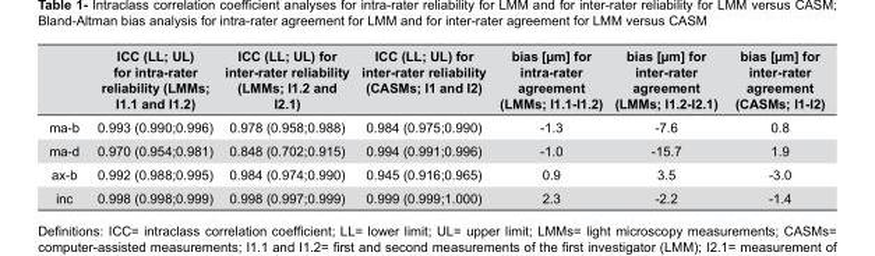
<table><thead><tr><td></td><td>ICC (LL; UL) for intra-rater reliability (LMMs; I1.1 and I1.2)</td><td>ICC (LL; UL) for inter-rater reliability (LMMs; I1.2 and I2.1)</td><td>ICC (LL; UL) for inter-rater reliability (CASMs; I1 and I2)</td><td>bias [µm] for intra-rater agreement (LMMs; I1.1-I1.2)</td><td>bias [µm] for inter-rater agreement (LMMs; I1.2-I2.1)</td><td>bias [µm] for inter-rater agreement (CASMs; I1-I2)</td></tr></thead><tbody><tr><td>ma-b</td><td>0.993 (0.990;0.996)</td><td>0.978 (0.958;0.988)</td><td>0.984 (0.975;0.990)</td><td>-1.3</td><td>-7.6</td><td>0.8</td></tr><tr><td>ma-d</td><td>0.970 (0.954;0.981)</td><td>0.848 (0.702;0.915)</td><td>0.994 (0.991;0.996)</td><td>-1.0</td><td>-15.7</td><td>1.9</td></tr><tr><td>ax-b</td><td>0.992 (0.988;0.995)</td><td>0.984 (0.974;0.990)</td><td>0.945 (0.916;0.965)</td><td>0.9</td><td>3.5</td><td>-3.0</td></tr><tr><td>inc</td><td>0.998 (0.998;0.999)</td><td>0.998 (0.997;0.999)</td><td>0.999 (0.999;1.000)</td><td>2.3</td><td>-2.2</td><td>-1.4</td></tr></tbody></table>